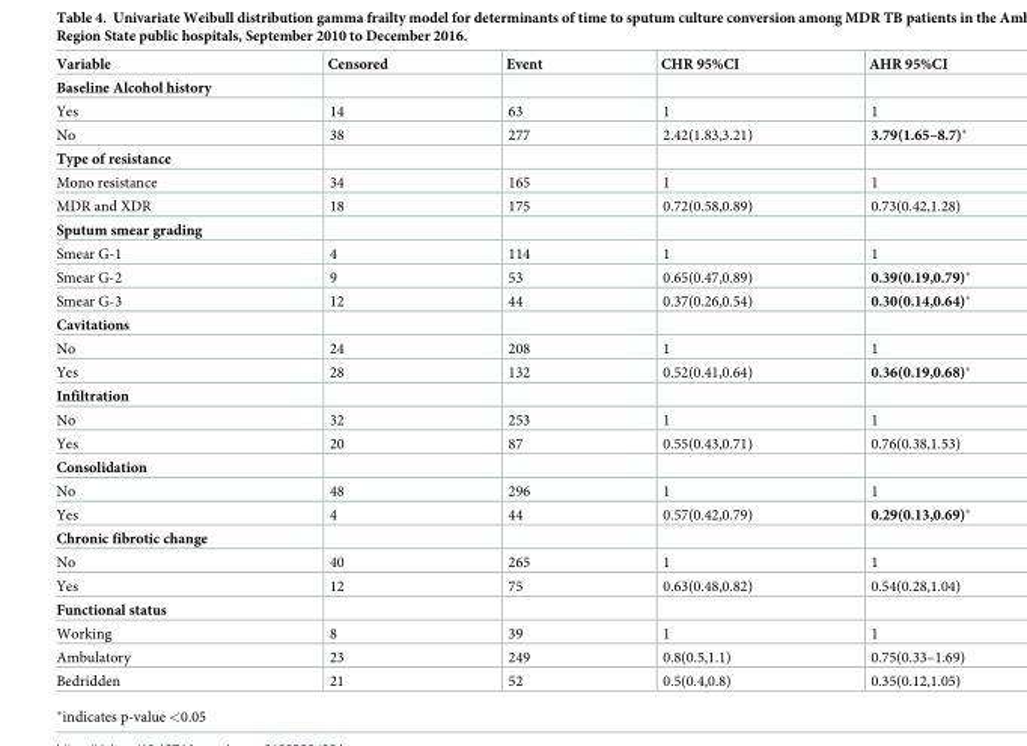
<table><thead><tr><td>Variable</td><td>Censored</td><td>Event</td><td>CHR 95%CI</td><td>AHR 95%CI</td></tr></thead><tbody><tr><td colspan="5">Baseline Alcohol history</td></tr><tr><td>Yes</td><td>14</td><td>63</td><td>1</td><td>1</td></tr><tr><td>No</td><td>38</td><td>277</td><td>2.42(1.83,3.21)</td><td>3.79(1.65–8.7)*</td></tr><tr><td colspan="5">Type of resistance</td></tr><tr><td>Mono resistance</td><td>34</td><td>165</td><td>1</td><td>1</td></tr><tr><td>MDR and XDR</td><td>18</td><td>175</td><td>0.72(0.58,0.89)</td><td>0.73(0.42,1.28)</td></tr><tr><td colspan="5">Sputum smear grading</td></tr><tr><td>Smear G-1</td><td>4</td><td>114</td><td>1</td><td>1</td></tr><tr><td>Smear G-2</td><td>9</td><td>53</td><td>0.65(0.47,0.89)</td><td>0.39(0.19,0.79)*</td></tr><tr><td>Smear G-3</td><td>12</td><td>44</td><td>0.37(0.26,0.54)</td><td>0.30(0.14,0.64)*</td></tr><tr><td colspan="5">Cavitations</td></tr><tr><td>No</td><td>24</td><td>208</td><td>1</td><td>1</td></tr><tr><td>Yes</td><td>28</td><td>132</td><td>0.52(0.41,0.64)</td><td>0.36(0.19,0.68)*</td></tr><tr><td colspan="5">Infiltration</td></tr><tr><td>No</td><td>32</td><td>253</td><td>1</td><td>1</td></tr><tr><td>Yes</td><td>20</td><td>87</td><td>0.55(0.43,0.71)</td><td>0.76(0.38,1.53)</td></tr><tr><td colspan="5">Consolidation</td></tr><tr><td>No</td><td>48</td><td>296</td><td>1</td><td>1</td></tr><tr><td>Yes</td><td>4</td><td>44</td><td>0.57(0.42,0.79)</td><td>0.29(0.13,0.69)*</td></tr><tr><td colspan="5">Chronic fibrotic change</td></tr><tr><td>No</td><td>40</td><td>265</td><td>1</td><td>1</td></tr><tr><td>Yes</td><td>12</td><td>75</td><td>0.63(0.48,0.82)</td><td>0.54(0.28,1.04)</td></tr><tr><td colspan="5">Functional status</td></tr><tr><td>Working</td><td>8</td><td>39</td><td>1</td><td>1</td></tr><tr><td>Ambulatory</td><td>23</td><td>249</td><td>0.8(0.5,1.1)</td><td>0.75(0.33–1.69)</td></tr><tr><td>Bedridden</td><td>21</td><td>52</td><td>0.5(0.4,0.8)</td><td>0.35(0.12,1.05)</td></tr></tbody></table>